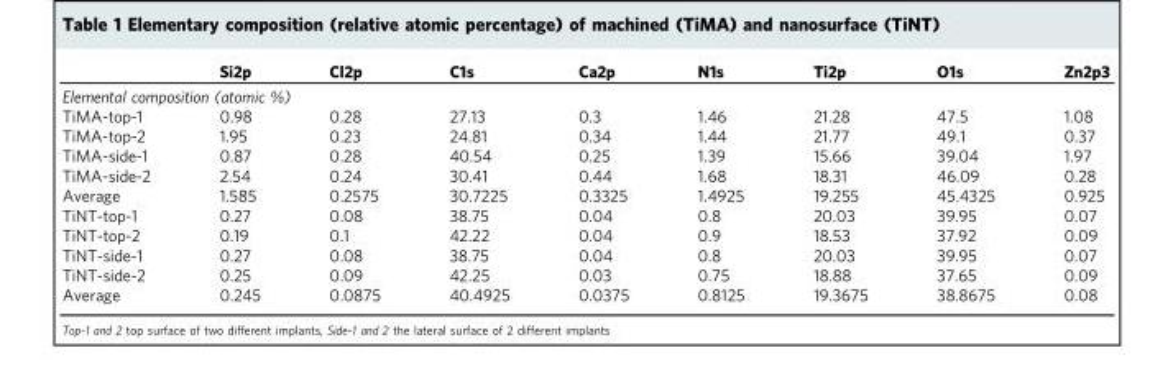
<table><thead><tr><td></td><td>Si2p</td><td>Cl2p</td><td>C1s</td><td>Ca2p</td><td>N1s</td><td>Ti2p</td><td>O1s</td><td>Zn2p3</td></tr></thead><tbody><tr><td colspan="9">Elemental composition (atomic %)</td></tr><tr><td>TiMA-top-1</td><td>0.98</td><td>0.28</td><td>27.13</td><td>0.3</td><td>1.46</td><td>21.28</td><td>47.5</td><td>1.08</td></tr><tr><td>TiMA-top-2</td><td>1.95</td><td>0.23</td><td>24.81</td><td>0.34</td><td>1.44</td><td>21.77</td><td>49.1</td><td>0.37</td></tr><tr><td>TiMA-side-1</td><td>0.87</td><td>0.28</td><td>40.54</td><td>0.25</td><td>1.39</td><td>15.66</td><td>39.04</td><td>1.97</td></tr><tr><td>TiMA-side-2</td><td>2.54</td><td>0.24</td><td>30.41</td><td>0.44</td><td>1.68</td><td>18.31</td><td>46.09</td><td>0.28</td></tr><tr><td>Average</td><td>1.585</td><td>0.2575</td><td>30.7225</td><td>0.3325</td><td>1.4925</td><td>19.255</td><td>45.4325</td><td>0.925</td></tr><tr><td>TiNT-top-1</td><td>0.27</td><td>0.08</td><td>38.75</td><td>0.04</td><td>0.8</td><td>20.03</td><td>39.95</td><td>0.07</td></tr><tr><td>TiNT-top-2</td><td>0.19</td><td>0.1</td><td>42.22</td><td>0.04</td><td>0.9</td><td>18.53</td><td>37.92</td><td>0.09</td></tr><tr><td>TiNT-side-1</td><td>0.27</td><td>0.08</td><td>38.75</td><td>0.04</td><td>0.8</td><td>20.03</td><td>39.95</td><td>0.07</td></tr><tr><td>TiNT-side-2</td><td>0.25</td><td>0.09</td><td>42.25</td><td>0.03</td><td>0.75</td><td>18.88</td><td>37.65</td><td>0.09</td></tr><tr><td>Average</td><td>0.245</td><td>0.0875</td><td>40.4925</td><td>0.0375</td><td>0.8125</td><td>19.3675</td><td>38.8675</td><td>0.08</td></tr></tbody></table>